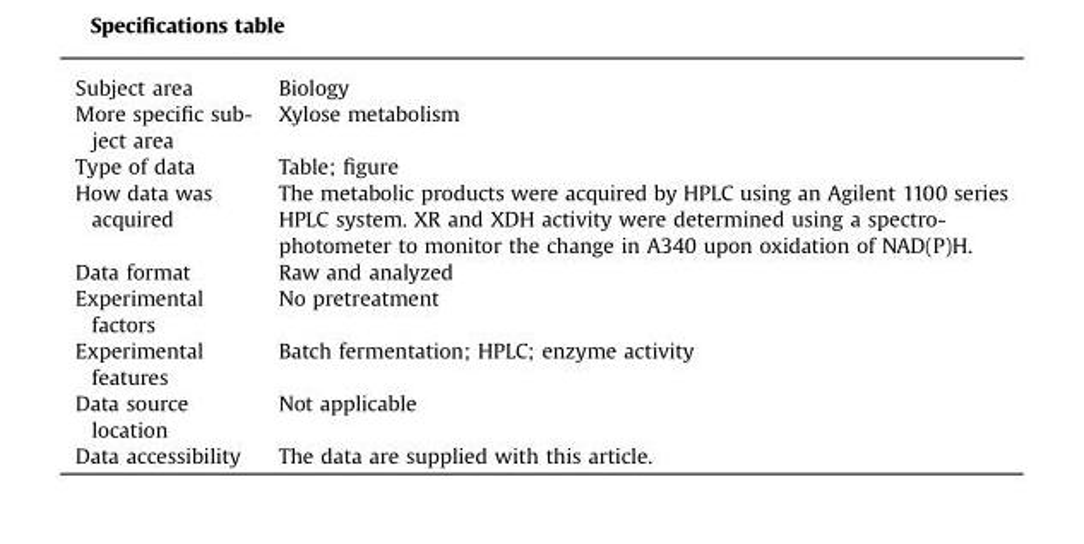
<table><tbody><tr><td>Subject area</td><td>Biology</td></tr><tr><td>More specific sub- ject area</td><td>Xylose metabolism</td></tr><tr><td>Type of data</td><td>Table; figure</td></tr><tr><td>How data was acquired</td><td>The metabolic products were acquired by HPLC using an Agilent 1100 series HPLC system. XR and XDH activity were determined using a spectro- photometer to monitor the change in A340 upon oxidation of NAD(P)H.</td></tr><tr><td>Data format</td><td>Raw and analyzed</td></tr><tr><td>Experimental factors</td><td>No pretreatment</td></tr><tr><td>Experimental features</td><td>Batch fermentation; HPLC; enzyme activity</td></tr><tr><td>Data source location</td><td>Not applicable</td></tr><tr><td>Data accessibility</td><td>The data are supplied with this article.</td></tr></tbody></table>